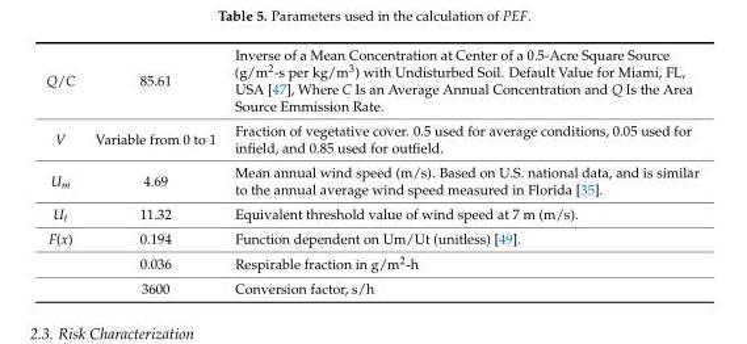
<table><tbody><tr><td>Q/C</td><td>85.61</td><td>Inverse of a Mean Concentration at Center of a 0.5-Acre Square Source (g/m<sup>2</sup>-s per kg/m<sup>3</sup>) with Undisturbed Soil. Default Value for Miami, FL, USA [47], Where C Is an Average Annual Concentration and Q Is the Area Source Emmission Rate.</td></tr><tr><td>V</td><td>Variable from 0 to 1</td><td>Fraction of vegetative cover. 0.5 used for average conditions, 0.05 used for infield, and 0.85 used for outfield.</td></tr><tr><td>U<sub>m</sub></td><td>4.69</td><td>Mean annual wind speed (m/s). Based on U.S. national data, and is similar to the annual average wind speed measured in Florida [35].</td></tr><tr><td>U<sub>t</sub></td><td>11.32</td><td>Equivalent threshold value of wind speed at 7 m (m/s).</td></tr><tr><td rowspan="3">F(x)</td><td>0.194</td><td>Function dependent on Um/Ut (unitless) [49].</td></tr><tr><td>0.036</td><td>Respirable fraction in g/m<sup>2</sup>-h</td></tr><tr><td>3600</td><td>Conversion factor, s/h</td></tr></tbody></table>